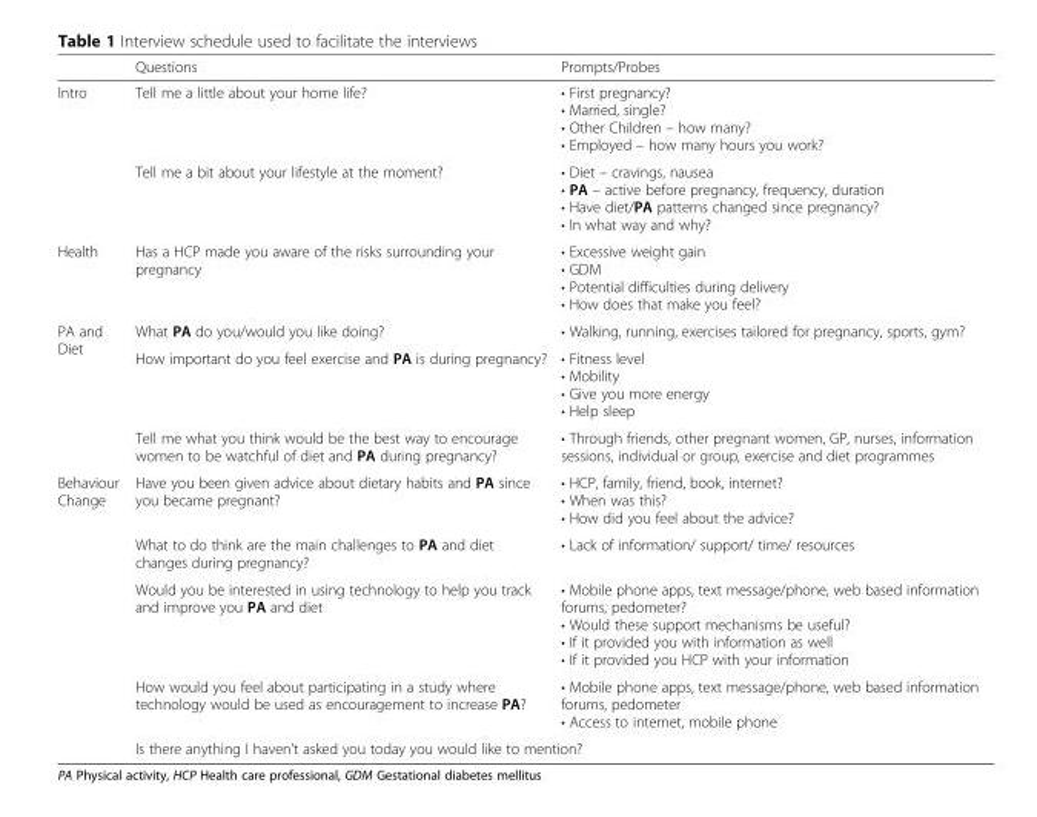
<table><thead><tr><td></td><td>Questions</td><td>Prompts/Probes</td></tr></thead><tbody><tr><td rowspan="2">Intro</td><td>Tell me a little about your home life?</td><td>• First pregnancy? • Married, single? • Other Children – how many? • Employed – how many hours you work?</td></tr><tr><td>Tell me a bit about your lifestyle at the moment?</td><td>• Diet – cravings, nausea • PA – active before pregnancy, frequency, duration • Have diet/PA patterns changed since pregnancy? • In what way and why?</td></tr><tr><td>Health</td><td>Has a HCP made you aware of the risks surrounding your pregnancy</td><td>• Excessive weight gain • GDM • Potential difficulties during delivery • How does that make you feel?</td></tr><tr><td rowspan="3">PA and Diet</td><td>What PA do you/would you like doing?</td><td>• Walking, running, exercises tailored for pregnancy, sports, gym?</td></tr><tr><td>How important do you feel exercise and PA is during pregnancy?</td><td>• Fitness level • Mobility • Give you more energy • Help sleep</td></tr><tr><td>Tell me what you think would be the best way to encourage women to be watchful of diet and PA during pregnancy?</td><td>• Through friends, other pregnant women, GP, nurses, information sessions, individual or group, exercise and diet programmes</td></tr><tr><td rowspan="5">Behaviour Change</td><td>Have you been given advice about dietary habits and PA since you became pregnant?</td><td>• HCP, family, friend, book, internet? • When was this? • How did you feel about the advice?</td></tr><tr><td>What to do think are the main challenges to PA and diet changes during pregnancy?</td><td>• Lack of information/ support/ time/ resources</td></tr><tr><td>Would you be interested in using technology to help you track and improve you PA and diet</td><td>• Mobile phone apps, text message/phone, web based information forums, pedometer? • Would these support mechanisms be useful? • If it provided you with information as well • If it provided you HCP with your information</td></tr><tr><td>How would you feel about participating in a study where technology would be used as encouragement to increase PA?</td><td>• Mobile phone apps, text message/phone, web based information forums, pedometer • Access to internet, mobile phone</td></tr><tr><td colspan="2">Is there anything I haven’t asked you today you would like to mention?</td></tr></tbody></table>